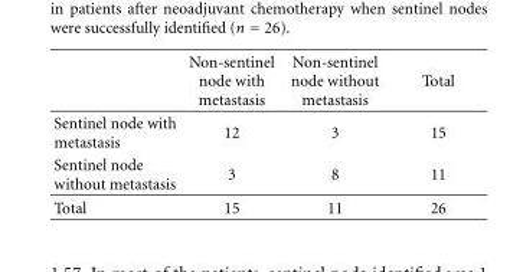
<table><thead><tr><td></td><td>Non-sentinel node with metastasis</td><td>Non-sentinel node without metastasis</td><td>Total</td></tr></thead><tbody><tr><td>Sentinel node with metastasis</td><td>12</td><td>3</td><td>15</td></tr><tr><td>Sentinel node without metastasis</td><td>3</td><td>8</td><td>11</td></tr><tr><td>Total</td><td>15</td><td>11</td><td>26</td></tr></tbody></table>